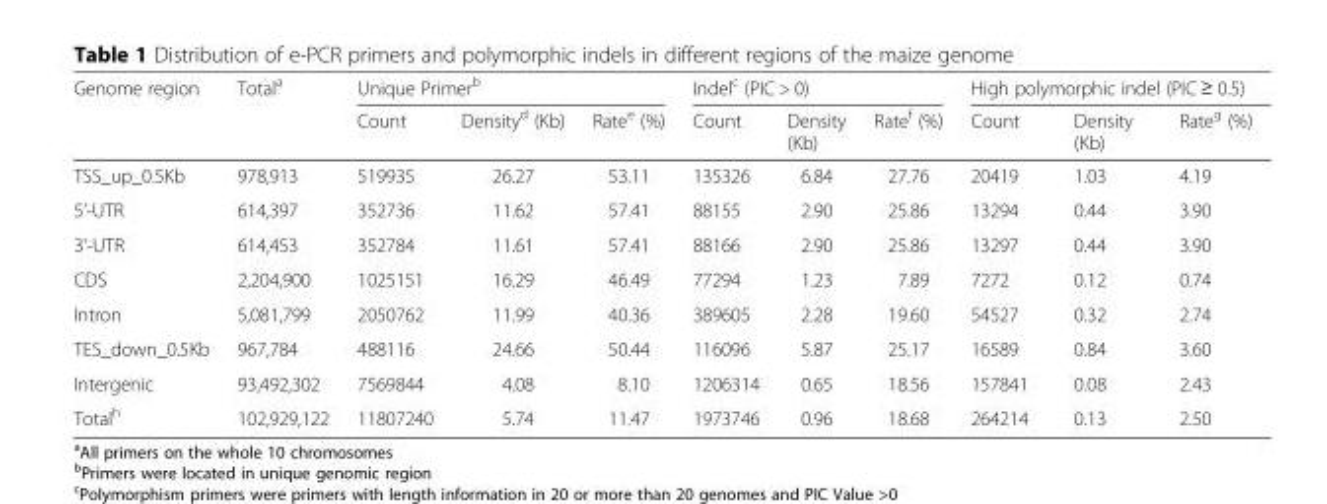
<table><thead><tr><td rowspan="2">Genome region</td><td rowspan="2">Total<sup>a</sup></td><td colspan="3">Unique Primer<sup>b</sup></td><td colspan="3">Indel<sup>c</sup> (PIC &gt; 0)</td><td colspan="3">High polymorphic indel (PIC ≥ 0.5)</td></tr><tr><td>Count</td><td>Density<sup>d</sup> (Kb)</td><td>Rate<sup>e</sup> (%)</td><td>Count</td><td>Density (Kb)</td><td>Rate<sup>f</sup> (%)</td><td>Count</td><td>Density (Kb)</td><td>Rate<sup>g</sup> (%)</td></tr></thead><tbody><tr><td>TSS_up_0.5Kb</td><td>978,913</td><td>519935</td><td>26.27</td><td>53.11</td><td>135326</td><td>6.84</td><td>27.76</td><td>20419</td><td>1.03</td><td>4.19</td></tr><tr><td>5’-UTR</td><td>614,397</td><td>352736</td><td>11.62</td><td>57.41</td><td>88155</td><td>2.90</td><td>25.86</td><td>13294</td><td>0.44</td><td>3.90</td></tr><tr><td>3&#x27;-UTR</td><td>614,453</td><td>352784</td><td>11.61</td><td>57.41</td><td>88166</td><td>2.90</td><td>25.86</td><td>13297</td><td>0.44</td><td>3.90</td></tr><tr><td>CDS</td><td>2,204,900</td><td>1025151</td><td>16.29</td><td>46.49</td><td>77294</td><td>1.23</td><td>7.89</td><td>7272</td><td>0.12</td><td>0.74</td></tr><tr><td>Intron</td><td>5,081,799</td><td>2050762</td><td>11.99</td><td>40.36</td><td>389605</td><td>2.28</td><td>19.60</td><td>54527</td><td>0.32</td><td>2.74</td></tr><tr><td>TES_down_0.5Kb</td><td>967,784</td><td>488116</td><td>24.66</td><td>50.44</td><td>116096</td><td>5.87</td><td>25.17</td><td>16589</td><td>0.84</td><td>3.60</td></tr><tr><td>Intergenic</td><td>93,492,302</td><td>7569844</td><td>4.08</td><td>8.10</td><td>1206314</td><td>0.65</td><td>18.56</td><td>157841</td><td>0.08</td><td>2.43</td></tr><tr><td>Total<sup>h</sup></td><td>102,929,122</td><td>11807240</td><td>5.74</td><td>11.47</td><td>1973746</td><td>0.96</td><td>18.68</td><td>264214</td><td>0.13</td><td>2.50</td></tr></tbody></table>